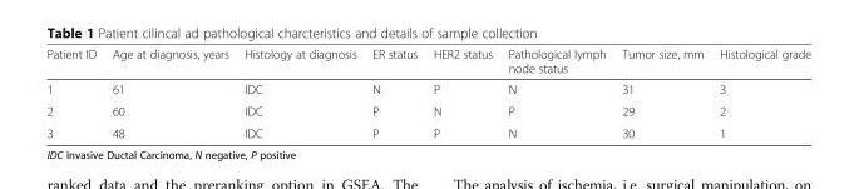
<table><thead><tr><td>Patient ID</td><td>Age at diagnosis, years</td><td>Histology at diagnosis</td><td>ER status</td><td>HER2 status</td><td>Pathological lymph node status</td><td>Tumor size, mm</td><td>Histological grade</td></tr></thead><tbody><tr><td>1</td><td>61</td><td>IDC</td><td>N</td><td>P</td><td>N</td><td>31</td><td>3</td></tr><tr><td>2</td><td>60</td><td>IDC</td><td>P</td><td>N</td><td>P</td><td>29</td><td>2</td></tr><tr><td>3</td><td>48</td><td>IDC</td><td>P</td><td>P</td><td>N</td><td>30</td><td>1</td></tr></tbody></table>